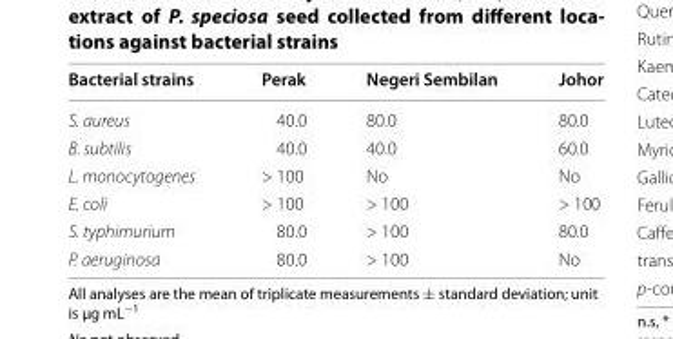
<table><thead><tr><td>Bacterial strains</td><td>Perak</td><td>Negeri Sembilan</td><td>Johor</td></tr></thead><tbody><tr><td>S. aureus</td><td>40.0</td><td>80.0</td><td>80.0</td></tr><tr><td>B. subtilis</td><td>40.0</td><td>40.0</td><td>60.0</td></tr><tr><td>L. monocytogenes</td><td>&gt; 100</td><td>No</td><td>No</td></tr><tr><td>E. coli</td><td>&gt; 100</td><td>&gt; 100</td><td>&gt; 100</td></tr><tr><td>S. typhimurium</td><td>80.0</td><td>&gt; 100</td><td>80.0</td></tr><tr><td>P. aeruginosa</td><td>80.0</td><td>&gt; 100</td><td>No</td></tr></tbody></table>